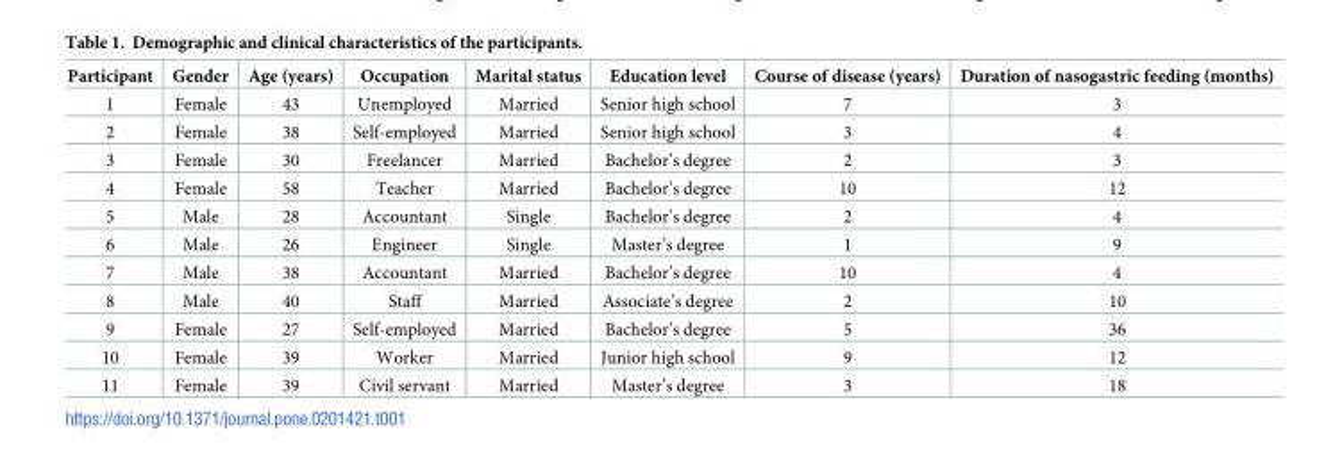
<table><thead><tr><td>Participant</td><td>Gender</td><td>Age (years)</td><td>Occupation</td><td>Marital status</td><td>Education level</td><td>Course of disease (years)</td><td>Duration of nasogastric feeding (months)</td></tr></thead><tbody><tr><td>1</td><td>Female</td><td>43</td><td>Unemployed</td><td>Married</td><td>Senior high school</td><td>7</td><td>3</td></tr><tr><td>2</td><td>Female</td><td>38</td><td>Self-employed</td><td>Married</td><td>Senior high school</td><td>3</td><td>4</td></tr><tr><td>3</td><td>Female</td><td>30</td><td>Freelancer</td><td>Married</td><td>Bachelor’s degree</td><td>2</td><td>3</td></tr><tr><td>4</td><td>Female</td><td>58</td><td>Teacher</td><td>Married</td><td>Bachelor’s degree</td><td>10</td><td>12</td></tr><tr><td>5</td><td>Male</td><td>28</td><td>Accountant</td><td>Single</td><td>Bachelor’s degree</td><td>2</td><td>4</td></tr><tr><td>6</td><td>Male</td><td>26</td><td>Engineer</td><td>Single</td><td>Master’s degree</td><td>1</td><td>9</td></tr><tr><td>7</td><td>Male</td><td>38</td><td>Accountant</td><td>Married</td><td>Bachelor’s degree</td><td>10</td><td>4</td></tr><tr><td>8</td><td>Male</td><td>40</td><td>Staff</td><td>Married</td><td>Associate’s degree</td><td>2</td><td>10</td></tr><tr><td>9</td><td>Female</td><td>27</td><td>Self-employed</td><td>Married</td><td>Bachelor’s degree</td><td>5</td><td>36</td></tr><tr><td>10</td><td>Female</td><td>39</td><td>Worker</td><td>Married</td><td>Junior high school</td><td>9</td><td>12</td></tr><tr><td>11</td><td>Female</td><td>39</td><td>Civil servant</td><td>Married</td><td>Master’s degree</td><td>3</td><td>18</td></tr></tbody></table>